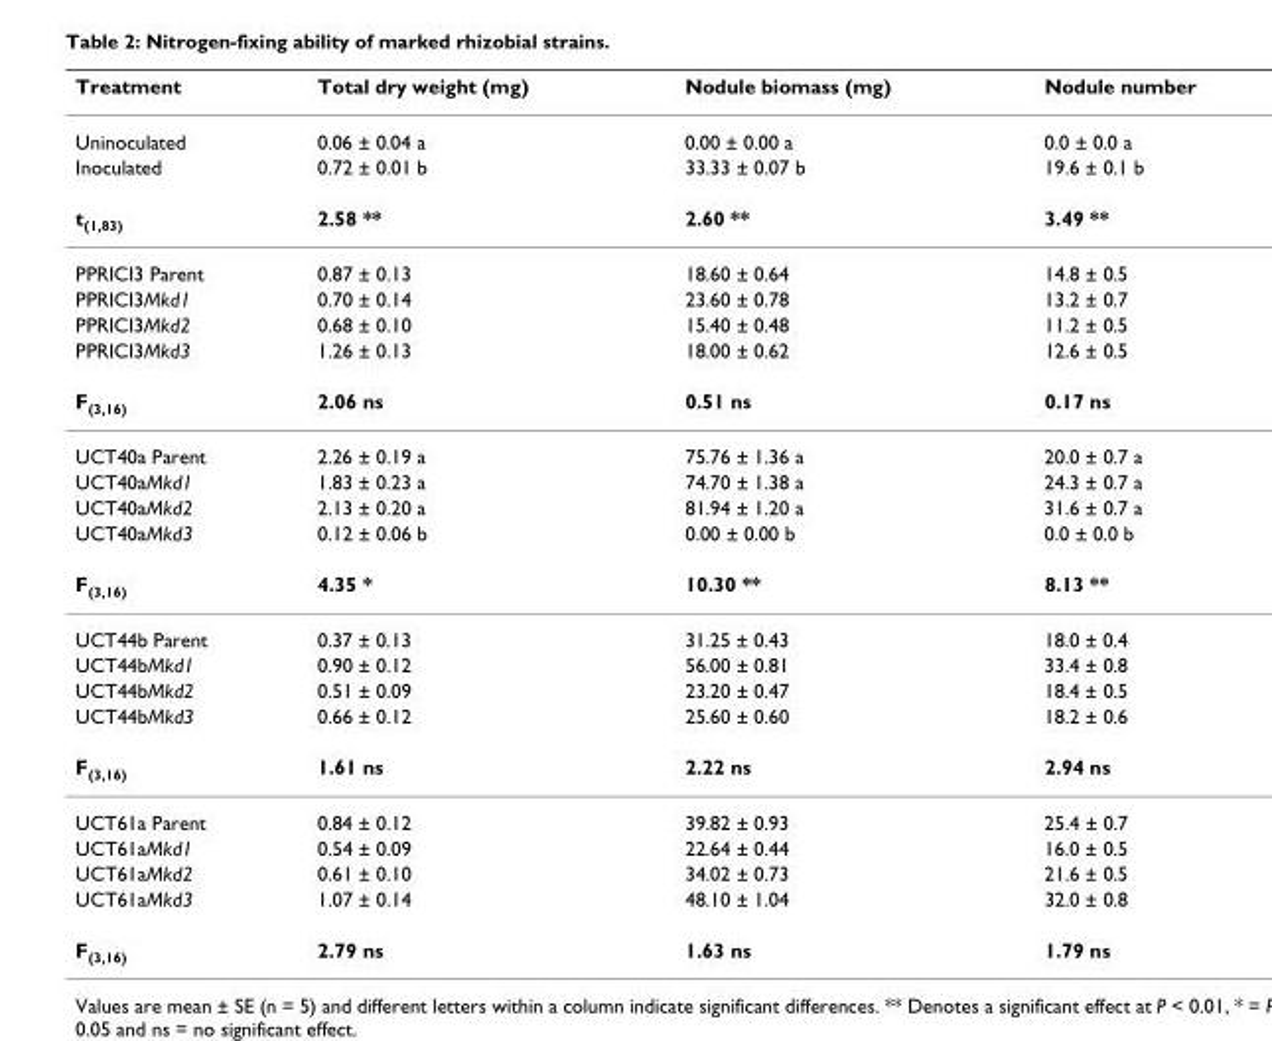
<table><thead><tr><td>Treatment</td><td>Total dry weight (mg)</td><td>Nodule biomass (mg)</td><td>Nodule number</td></tr></thead><tbody><tr><td>Uninoculated</td><td>0.06 ± 0.04 a</td><td>0.00 ± 0.00 a</td><td>0.0 ± 0.0 a</td></tr><tr><td>Inoculated</td><td>0.72 ± 0.01 b</td><td>33.33 ± 0.07 b</td><td>19.6 ± 0.1 b</td></tr><tr><td>t<sub>(1,83)</sub></td><td>2.58 **</td><td>2.60 **</td><td>3.49 **</td></tr><tr><td>PPRICI3 Parent</td><td>0.87 ± 0.13</td><td>18.60 ± 0.64</td><td>14.8 ± 0.5</td></tr><tr><td>PPRICI3Mkd1</td><td>0.70 ± 0.14</td><td>23.60 ± 0.78</td><td>13.2 ± 0.7</td></tr><tr><td>PPRICI3Mkd2</td><td>0.68 ± 0.10</td><td>15.40 ± 0.48</td><td>11.2 ± 0.5</td></tr><tr><td>PPRICI3Mkd3</td><td>1.26 ± 0.13</td><td>18.00 ± 0.62</td><td>12.6 ± 0.5</td></tr><tr><td>F<sub>(3,16)</sub></td><td>2.06 ns</td><td>0.51 ns</td><td>0.17 ns</td></tr><tr><td>UCT40a Parent</td><td>2.26 ± 0.19 a</td><td>75.76 ± 1.36 a</td><td>20.0 ± 0.7 a</td></tr><tr><td>UCT40aMkd1</td><td>1.83 ± 0.23 a</td><td>74.70 ± 1.38 a</td><td>24.3 ± 0.7 a</td></tr><tr><td>UCT40aMkd2</td><td>2.13 ± 0.20 a</td><td>81.94 ± 1.20 a</td><td>31.6 ± 0.7 a</td></tr><tr><td>UCT40aMkd3</td><td>0.12 ± 0.06 b</td><td>0.00 ± 0.00 b</td><td>0.0 ± 0.0 b</td></tr><tr><td>F<sub>(3,16)</sub></td><td>4.35 *</td><td>10.30 **</td><td>8.13 **</td></tr><tr><td>UCT44b Parent</td><td>0.37 ± 0.13</td><td>31.25 ± 0.43</td><td>18.0 ± 0.4</td></tr><tr><td>UCT44bMkd1</td><td>0.90 ± 0.12</td><td>56.00 ± 0.81</td><td>33.4 ± 0.8</td></tr><tr><td>UCT44bMkd2</td><td>0.51 ± 0.09</td><td>23.20 ± 0.47</td><td>18.4 ± 0.5</td></tr><tr><td>UCT44bMkd3</td><td>0.66 ± 0.12</td><td>25.60 ± 0.60</td><td>18.2 ± 0.6</td></tr><tr><td>F<sub>(3,16)</sub></td><td>1.61 ns</td><td>2.22 ns</td><td>2.94 ns</td></tr><tr><td>UCT61a Parent</td><td>0.84 ± 0.12</td><td>39.82 ± 0.93</td><td>25.4 ± 0.7</td></tr><tr><td>UCT61aMkd1</td><td>0.54 ± 0.09</td><td>22.64 ± 0.44</td><td>16.0 ± 0.5</td></tr><tr><td>UCT61aMkd2</td><td>0.61 ± 0.10</td><td>34.02 ± 0.73</td><td>21.6 ± 0.5</td></tr><tr><td>UCT61aMkd3</td><td>1.07 ± 0.14</td><td>48.10 ± 1.04</td><td>32.0 ± 0.8</td></tr><tr><td>F<sub>(3,16)</sub></td><td>2.79 ns</td><td>1.63 ns</td><td>1.79 ns</td></tr></tbody></table>